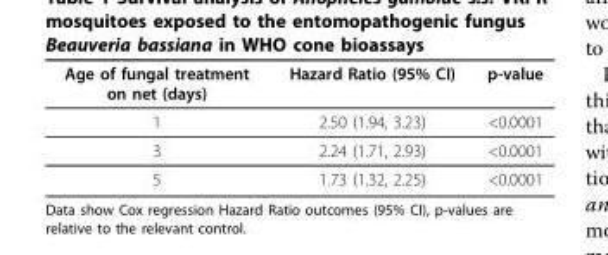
<table><thead><tr><td>Age of fungal treatment on net (days)</td><td>Hazard Ratio (95% CI)</td><td>p-value</td></tr></thead><tbody><tr><td>1</td><td>2.50 (1.94, 3.23)</td><td>&lt;0.0001</td></tr><tr><td>3</td><td>2.24 (1.71, 2.93)</td><td>&lt;0.0001</td></tr><tr><td>5</td><td>1.73 (1.32, 2.25)</td><td>&lt;0.0001</td></tr></tbody></table>